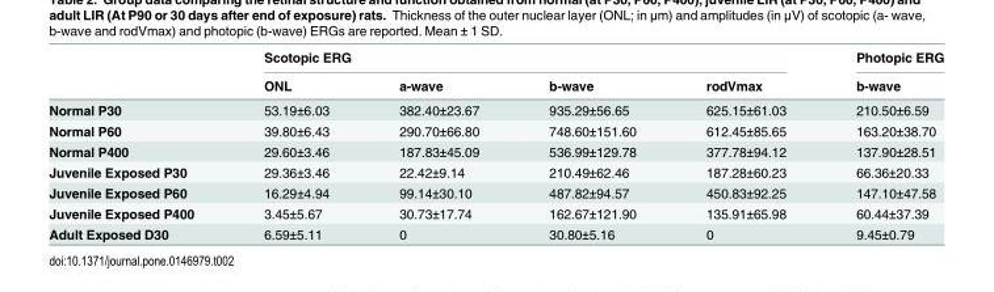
<table><thead><tr><td rowspan="2"></td><td colspan="4">Scotopic ERG</td><td rowspan="2">Photopic ERG b-wave</td></tr><tr><td>ONL</td><td>a-wave</td><td>b-wave</td><td>rodVmax</td></tr></thead><tbody><tr><td>Normal P30</td><td>53.19±6.03</td><td>382.40±23.67</td><td>935.29±56.65</td><td>625.15±61.03</td><td>210.50±6.59</td></tr><tr><td>Normal P60</td><td>39.80±6.43</td><td>290.70±66.80</td><td>748.60±151.60</td><td>612.45±85.65</td><td>163.20±38.70</td></tr><tr><td>Normal P400</td><td>29.60±3.46</td><td>187.83±45.09</td><td>536.99±129.78</td><td>377.78±94.12</td><td>137.90±28.51</td></tr><tr><td>Juvenile Exposed P30</td><td>29.36±3.46</td><td>22.42±9.14</td><td>210.49±62.46</td><td>187.28±60.23</td><td>66.36±20.33</td></tr><tr><td>Juvenile Exposed P60</td><td>16.29±4.94</td><td>99.14±30.10</td><td>487.82±94.57</td><td>450.83±92.25</td><td>147.10±47.58</td></tr><tr><td>Juvenile Exposed P400</td><td>3.45±5.67</td><td>30.73±17.74</td><td>162.67±121.90</td><td>135.91±65.98</td><td>60.44±37.39</td></tr><tr><td>Adult Exposed D30</td><td>6.59±5.11</td><td>0</td><td>30.80±5.16</td><td>0</td><td>9.45±0.79</td></tr></tbody></table>